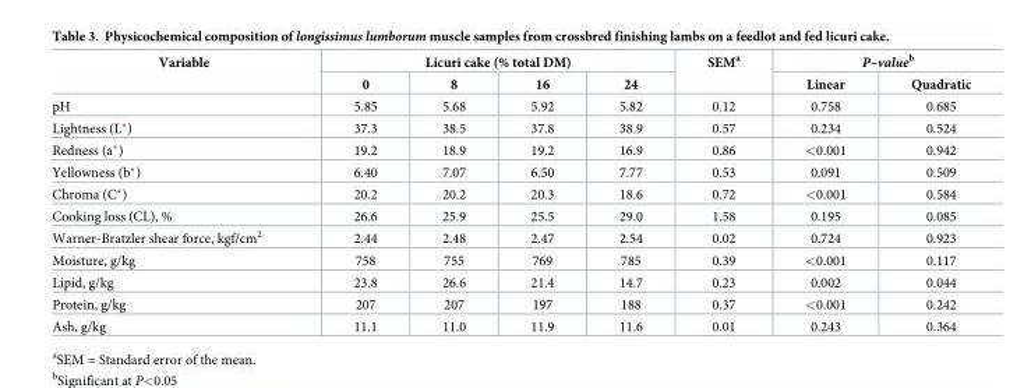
<table><thead><tr><td rowspan="2">Variable</td><td colspan="4">Licuri cake (% total DM)</td><td rowspan="2">SEM<sup>a</sup></td><td colspan="2">P–value<sup>b</sup></td></tr><tr><td>0</td><td>8</td><td>16</td><td>24</td><td>Linear</td><td>Quadratic</td></tr></thead><tbody><tr><td>pH</td><td>5.85</td><td>5.68</td><td>5.92</td><td>5.82</td><td>0.12</td><td>0.758</td><td>0.685</td></tr><tr><td>Lightness (L*)</td><td>37.3</td><td>38.5</td><td>37.8</td><td>38.9</td><td>0.57</td><td>0.234</td><td>0.524</td></tr><tr><td>Redness (a*)</td><td>19.2</td><td>18.9</td><td>19.2</td><td>16.9</td><td>0.86</td><td>&lt;0.001</td><td>0.942</td></tr><tr><td>Yellowness (b*)</td><td>6.40</td><td>7.07</td><td>6.50</td><td>7.77</td><td>0.53</td><td>0.091</td><td>0.509</td></tr><tr><td>Chroma (C*)</td><td>20.2</td><td>20.2</td><td>20.3</td><td>18.6</td><td>0.72</td><td>&lt;0.001</td><td>0.584</td></tr><tr><td>Cooking loss (CL), %</td><td>26.6</td><td>25.9</td><td>25.5</td><td>29.0</td><td>1.58</td><td>0.195</td><td>0.085</td></tr><tr><td>Warner-Bratzler shear force, kgf/cm<sup>2</sup></td><td>2.44</td><td>2.48</td><td>2.47</td><td>2.54</td><td>0.02</td><td>0.724</td><td>0.923</td></tr><tr><td>Moisture, g/kg</td><td>758</td><td>755</td><td>769</td><td>785</td><td>0.39</td><td>&lt;0.001</td><td>0.117</td></tr><tr><td>Lipid, g/kg</td><td>23.8</td><td>26.6</td><td>21.4</td><td>14.7</td><td>0.23</td><td>0.002</td><td>0.044</td></tr><tr><td>Protein, g/kg</td><td>207</td><td>207</td><td>197</td><td>188</td><td>0.37</td><td>&lt;0.001</td><td>0.242</td></tr><tr><td>Ash, g/kg</td><td>11.1</td><td>11.0</td><td>11.9</td><td>11.6</td><td>0.01</td><td>0.243</td><td>0.364</td></tr></tbody></table>